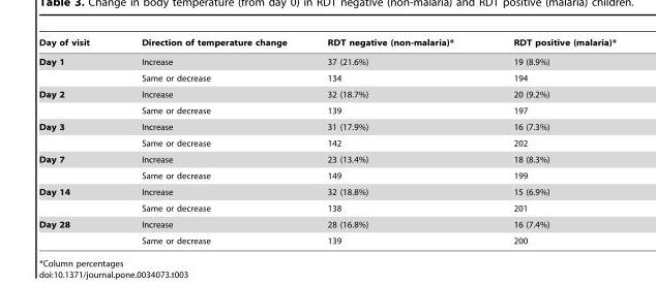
<table><thead><tr><td>Day of visit</td><td>Direction of temperature change</td><td>RDT negative (non-malaria)*</td><td>RDT positive (malaria)*</td></tr></thead><tbody><tr><td rowspan="2">Day 1</td><td>Increase</td><td>37 (21.6%)</td><td>19 (8.9%)</td></tr><tr><td>Same or decrease</td><td>134</td><td>194</td></tr><tr><td rowspan="2">Day 2</td><td>Increase</td><td>32 (18.7%)</td><td>20 (9.2%)</td></tr><tr><td>Same or decrease</td><td>139</td><td>197</td></tr><tr><td rowspan="2">Day 3</td><td>Increase</td><td>31 (17.9%)</td><td>16 (7.3%)</td></tr><tr><td>Same or decrease</td><td>142</td><td>202</td></tr><tr><td rowspan="2">Day 7</td><td>Increase</td><td>23 (13.4%)</td><td>18 (8.3%)</td></tr><tr><td>Same or decrease</td><td>149</td><td>199</td></tr><tr><td rowspan="2">Day 14</td><td>Increase</td><td>32 (18.8%)</td><td>15 (6.9%)</td></tr><tr><td>Same or decrease</td><td>138</td><td>201</td></tr><tr><td rowspan="2">Day 28</td><td>Increase</td><td>28 (16.8%)</td><td>16 (7.4%)</td></tr><tr><td>Same or decrease</td><td>139</td><td>200</td></tr></tbody></table>